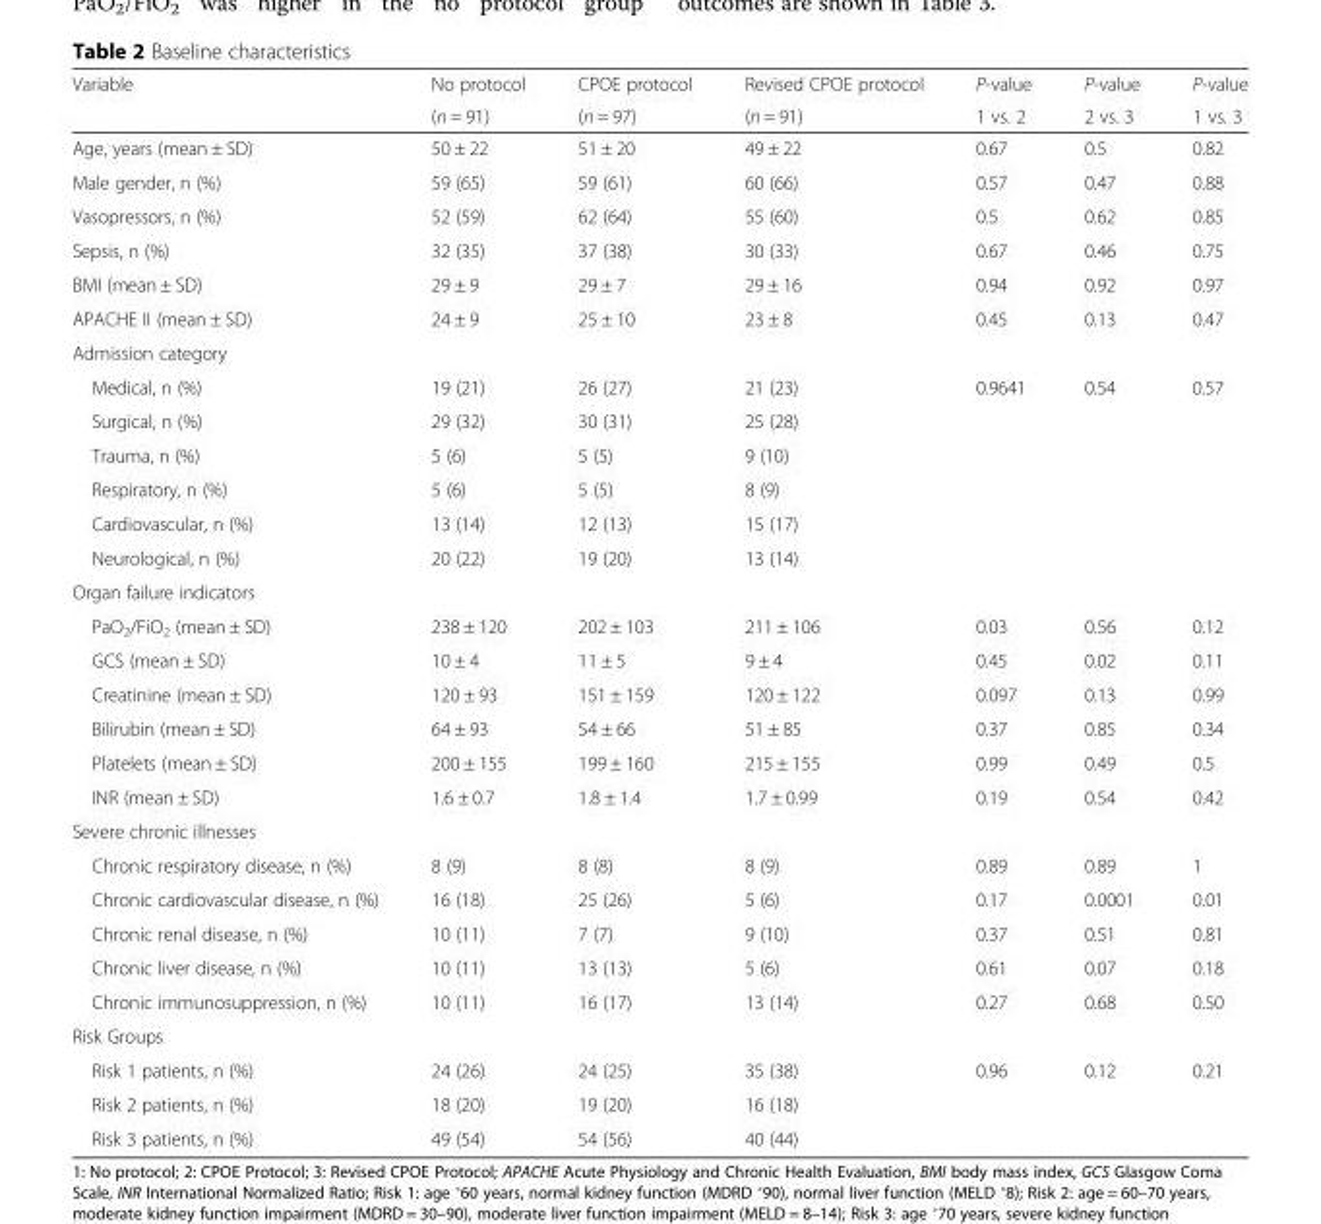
<table><thead><tr><td rowspan="2">Variable</td><td rowspan="2">No protocol (n = 91)</td><td rowspan="2">CPOE protocol (n = 97)</td><td rowspan="2">Revised CPOE protocol (n = 91)</td><td rowspan="2">P-value 1 vs. 2</td><td rowspan="2">P-value 2 vs. 3</td><td rowspan="2">P-value 1 vs. 3</td></tr><tr></tr></thead><tbody><tr><td>Age, years (mean ± SD)</td><td>50 ± 22</td><td>51 ± 20</td><td>49 ± 22</td><td>0.67</td><td>0.5</td><td>0.82</td></tr><tr><td>Male gender, n (%)</td><td>59 (65)</td><td>59 (61)</td><td>60 (66)</td><td>0.57</td><td>0.47</td><td>0.88</td></tr><tr><td>Vasopressors, n (%)</td><td>52 (59)</td><td>62 (64)</td><td>55 (60)</td><td>0.5</td><td>0.62</td><td>0.85</td></tr><tr><td>Sepsis, n (%)</td><td>32 (35)</td><td>37 (38)</td><td>30 (33)</td><td>0.67</td><td>0.46</td><td>0.75</td></tr><tr><td>BMI (mean ± SD)</td><td>29 ± 9</td><td>29 ± 7</td><td>29 ± 16</td><td>0.94</td><td>0.92</td><td>0.97</td></tr><tr><td>APACHE II (mean ± SD)</td><td>24 ± 9</td><td>25 ± 10</td><td>23 ± 8</td><td>0.45</td><td>0.13</td><td>0.47</td></tr><tr><td colspan="7">Admission category</td></tr><tr><td>Medical, n (%)</td><td>19 (21)</td><td>26 (27)</td><td>21 (23)</td><td rowspan="6">0.9641</td><td rowspan="6">0.54</td><td rowspan="6">0.57</td></tr><tr><td>Surgical, n (%)</td><td>29 (32)</td><td>30 (31)</td><td>25 (28)</td></tr><tr><td>Trauma, n (%)</td><td>5 (6)</td><td>5 (5)</td><td>9 (10)</td></tr><tr><td>Respiratory, n (%)</td><td>5 (6)</td><td>5 (5)</td><td>8 (9)</td></tr><tr><td>Cardiovascular, n (%)</td><td>13 (14)</td><td>12 (13)</td><td>15 (17)</td></tr><tr><td>Neurological, n (%)</td><td>20 (22)</td><td>19 (20)</td><td>13 (14)</td></tr><tr><td colspan="7">Organ failure indicators</td></tr><tr><td>PaO<sub>2</sub>/FiO<sub>2</sub> (mean ± SD)</td><td>238 ± 120</td><td>202 ± 103</td><td>211 ± 106</td><td>0.03</td><td>0.56</td><td>0.12</td></tr><tr><td>GCS (mean ± SD)</td><td>10 ± 4</td><td>11 ± 5</td><td>9 ± 4</td><td>0.45</td><td>0.02</td><td>0.11</td></tr><tr><td>Creatinine (mean ± SD)</td><td>120 ± 93</td><td>151 ± 159</td><td>120 ± 122</td><td>0.097</td><td>0.13</td><td>0.99</td></tr><tr><td>Bilirubin (mean ± SD)</td><td>64 ± 93</td><td>54 ± 66</td><td>51 ± 85</td><td>0.37</td><td>0.85</td><td>0.34</td></tr><tr><td>Platelets (mean ± SD)</td><td>200 ± 155</td><td>199 ± 160</td><td>215 ± 155</td><td>0.99</td><td>0.49</td><td>0.5</td></tr><tr><td>INR (mean ± SD)</td><td>1.6 ± 0.7</td><td>1.8 ± 1.4</td><td>1.7 ± 0.99</td><td>0.19</td><td>0.54</td><td>0.42</td></tr><tr><td colspan="7">Severe chronic illnesses</td></tr><tr><td>Chronic respiratory disease, n (%)</td><td>8 (9)</td><td>8 (8)</td><td>8 (9)</td><td>0.89</td><td>0.89</td><td>1</td></tr><tr><td>Chronic cardiovascular disease, n (%)</td><td>16 (18)</td><td>25 (26)</td><td>5 (6)</td><td>0.17</td><td>0.0001</td><td>0.01</td></tr><tr><td>Chronic renal disease, n (%)</td><td>10 (11)</td><td>7 (7)</td><td>9 (10)</td><td>0.37</td><td>0.51</td><td>0.81</td></tr><tr><td>Chronic liver disease, n (%)</td><td>10 (11)</td><td>13 (13)</td><td>5 (6)</td><td>0.61</td><td>0.07</td><td>0.18</td></tr><tr><td>Chronic immunosuppression, n (%)</td><td>10 (11)</td><td>16 (17)</td><td>13 (14)</td><td>0.27</td><td>0.68</td><td>0.50</td></tr><tr><td colspan="7">Risk Groups</td></tr><tr><td>Risk 1 patients, n (%)</td><td>24 (26)</td><td>24 (25)</td><td>35 (38)</td><td rowspan="3">0.96</td><td rowspan="3">0.12</td><td rowspan="3">0.21</td></tr><tr><td>Risk 2 patients, n (%)</td><td>18 (20)</td><td>19 (20)</td><td>16 (18)</td></tr><tr><td>Risk 3 patients, n (%)</td><td>49 (54)</td><td>54 (56)</td><td>40 (44)</td></tr></tbody></table>